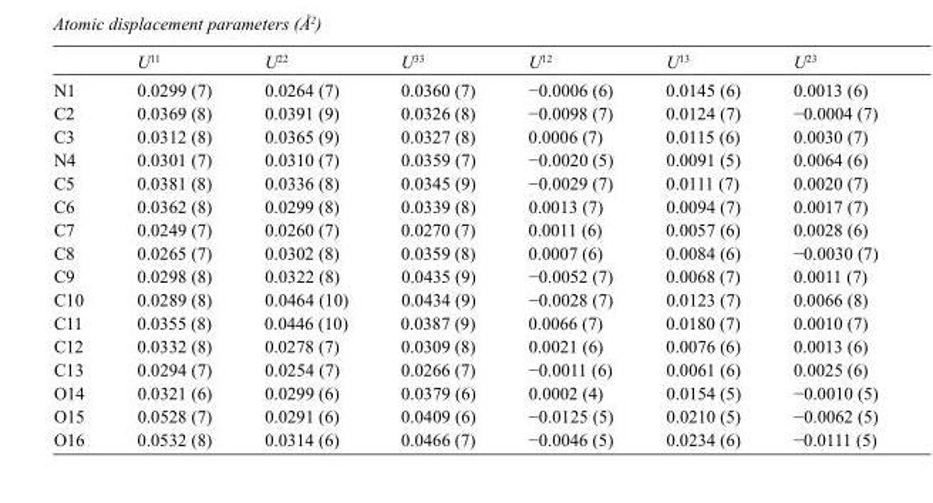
<table><thead><tr><td></td><td>U<sup>11</sup></td><td>U<sup>22</sup></td><td>U<sup>33</sup></td><td>U<sup>12</sup></td><td>U<sup>13</sup></td><td>U<sup>23</sup></td></tr></thead><tbody><tr><td>N1</td><td>0.0299 (7)</td><td>0.0264 (7)</td><td>0.0360 (7)</td><td>−0.0006 (6)</td><td>0.0145 (6)</td><td>0.0013 (6)</td></tr><tr><td>C2</td><td>0.0369 (8)</td><td>0.0391 (9)</td><td>0.0326 (8)</td><td>−0.0098 (7)</td><td>0.0124 (7)</td><td>−0.0004 (7)</td></tr><tr><td>C3</td><td>0.0312 (8)</td><td>0.0365 (9)</td><td>0.0327 (8)</td><td>0.0006 (7)</td><td>0.0115 (6)</td><td>0.0030 (7)</td></tr><tr><td>N4</td><td>0.0301 (7)</td><td>0.0310 (7)</td><td>0.0359 (7)</td><td>−0.0020 (5)</td><td>0.0091 (5)</td><td>0.0064 (6)</td></tr><tr><td>C5</td><td>0.0381 (8)</td><td>0.0336 (8)</td><td>0.0345 (9)</td><td>−0.0029 (7)</td><td>0.0111 (7)</td><td>0.0020 (7)</td></tr><tr><td>C6</td><td>0.0362 (8)</td><td>0.0299 (8)</td><td>0.0339 (8)</td><td>0.0013 (7)</td><td>0.0094 (7)</td><td>0.0017 (7)</td></tr><tr><td>C7</td><td>0.0249 (7)</td><td>0.0260 (7)</td><td>0.0270 (7)</td><td>0.0011 (6)</td><td>0.0057 (6)</td><td>0.0028 (6)</td></tr><tr><td>C8</td><td>0.0265 (7)</td><td>0.0302 (8)</td><td>0.0359 (8)</td><td>0.0007 (6)</td><td>0.0084 (6)</td><td>−0.0030 (7)</td></tr><tr><td>C9</td><td>0.0298 (8)</td><td>0.0322 (8)</td><td>0.0435 (9)</td><td>−0.0052 (7)</td><td>0.0068 (7)</td><td>0.0011 (7)</td></tr><tr><td>C10</td><td>0.0289 (8)</td><td>0.0464 (10)</td><td>0.0434 (9)</td><td>−0.0028 (7)</td><td>0.0123 (7)</td><td>0.0066 (8)</td></tr><tr><td>C11</td><td>0.0355 (8)</td><td>0.0446 (10)</td><td>0.0387 (9)</td><td>0.0066 (7)</td><td>0.0180 (7)</td><td>0.0010 (7)</td></tr><tr><td>C12</td><td>0.0332 (8)</td><td>0.0278 (7)</td><td>0.0309 (8)</td><td>0.0021 (6)</td><td>0.0076 (6)</td><td>0.0013 (6)</td></tr><tr><td>C13</td><td>0.0294 (7)</td><td>0.0254 (7)</td><td>0.0266 (7)</td><td>−0.0011 (6)</td><td>0.0061 (6)</td><td>0.0025 (6)</td></tr><tr><td>O14</td><td>0.0321 (6)</td><td>0.0299 (6)</td><td>0.0379 (6)</td><td>0.0002 (4)</td><td>0.0154 (5)</td><td>−0.0010 (5)</td></tr><tr><td>O15</td><td>0.0528 (7)</td><td>0.0291 (6)</td><td>0.0409 (6)</td><td>−0.0125 (5)</td><td>0.0210 (5)</td><td>−0.0062 (5)</td></tr><tr><td>O16</td><td>0.0532 (8)</td><td>0.0314 (6)</td><td>0.0466 (7)</td><td>−0.0046 (5)</td><td>0.0234 (6)</td><td>−0.0111 (5)</td></tr></tbody></table>